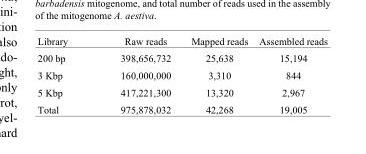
<table><thead><tr><td>Library</td><td>Raw reads</td><td>Mapped reads</td><td>Assembled reads</td></tr></thead><tbody><tr><td>200 bp</td><td>398,656,732</td><td>25,638</td><td>15,194</td></tr><tr><td>3 Kbp</td><td>160,000,000</td><td>3,310</td><td>844</td></tr><tr><td>5 Kbp</td><td>417,221,300</td><td>13,320</td><td>2,967</td></tr><tr><td>Total</td><td>975,878,032</td><td>42,268</td><td>19,005</td></tr></tbody></table>